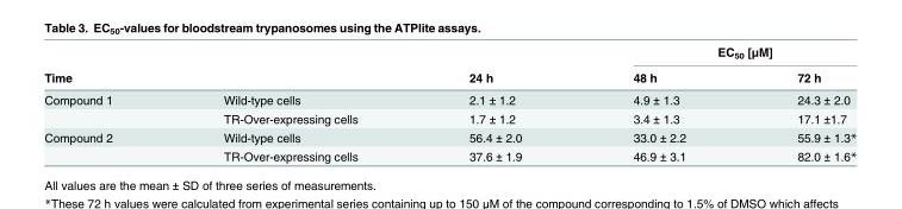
<table><thead><tr><td rowspan="2">Time</td><td rowspan="2"></td><td rowspan="2">24 h</td><td colspan="2">EC<sub>50</sub> [μM]</td></tr><tr><td>48 h</td><td>72 h</td></tr></thead><tbody><tr><td rowspan="2">Compound 1</td><td>Wild-type cells</td><td>2.1 ± 1.2</td><td>4.9 ± 1.3</td><td>24.3 ± 2.0</td></tr><tr><td>TR-Over-expressing cells</td><td>1.7 ± 1.2</td><td>3.4 ± 1.3</td><td>17.1 ±1.7</td></tr><tr><td rowspan="2">Compound 2</td><td>Wild-type cells</td><td>56.4 ± 2.0</td><td>33.0 ± 2.2</td><td>55.9 ± 1.3*</td></tr><tr><td>TR-Over-expressing cells</td><td>37.6 ± 1.9</td><td>46.9 ± 3.1</td><td>82.0 ± 1.6*</td></tr></tbody></table>